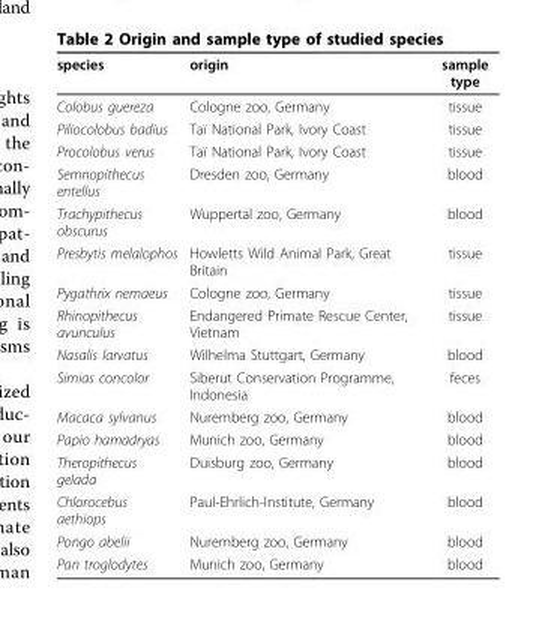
<table><thead><tr><td>species</td><td>origin</td><td>sample type</td></tr></thead><tbody><tr><td>Colobus guereza</td><td>Cologne zoo, Germany</td><td>tissue</td></tr><tr><td>Piliocolobus badius</td><td>Taï National Park, Ivory Coast</td><td>tissue</td></tr><tr><td>Procolobus verus</td><td>Taï National Park, Ivory Coast</td><td>tissue</td></tr><tr><td>Semnopithecus entellus</td><td>Dresden zoo, Germany</td><td>blood</td></tr><tr><td>Trachypithecus obscurus</td><td>Wuppertal zoo, Germany</td><td>blood</td></tr><tr><td>Presbytis melalophos</td><td>Howletts Wild Animal Park, Great Britain</td><td>tissue</td></tr><tr><td>Pygathrix nemaeus</td><td>Cologne zoo, Germany</td><td>tissue</td></tr><tr><td>Rhinopithecus avunculus</td><td>Endangered Primate Rescue Center, Vietnam</td><td>tissue</td></tr><tr><td>Nasalis larvatus</td><td>Wilhelma Stuttgart, Germany</td><td>blood</td></tr><tr><td>Simias concolor</td><td>Siberut Conservation Programme, Indonesia</td><td>feces</td></tr><tr><td>Macaca sylvanus</td><td>Nuremberg zoo, Germany</td><td>blood</td></tr><tr><td>Papio hamadryas</td><td>Munich zoo, Germany</td><td>blood</td></tr><tr><td>Theropithecus gelada</td><td>Duisburg zoo, Germany</td><td>blood</td></tr><tr><td>Chlorocebus aethiops</td><td>Paul-Ehrlich-Institute, Germany</td><td>blood</td></tr><tr><td>Pongo abelii</td><td>Nuremberg zoo, Germany</td><td>blood</td></tr><tr><td>Pan troglodytes</td><td>Munich zoo, Germany</td><td>blood</td></tr></tbody></table>